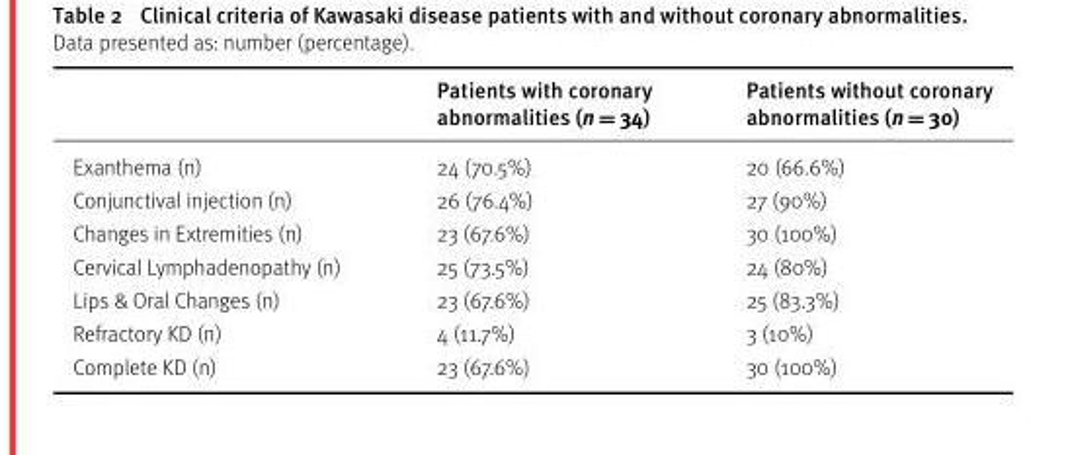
<table><thead><tr><td></td><td>Patients with coronary abnormalities (n = 34)</td><td>Patients without coronary abnormalities (n = 30)</td></tr></thead><tbody><tr><td>Exanthema (n)</td><td>24 (70.5%)</td><td>20 (66.6%)</td></tr><tr><td>Conjunctival injection (n)</td><td>26 (76.4%)</td><td>27 (90%)</td></tr><tr><td>Changes in Extremities (n)</td><td>23 (67.6%)</td><td>30 (100%)</td></tr><tr><td>Cervical Lymphadenopathy (n)</td><td>25 (73.5%)</td><td>24 (80%)</td></tr><tr><td>Lips &amp; Oral Changes (n)</td><td>23 (67.6%)</td><td>25 (83.3%)</td></tr><tr><td>Refractory KD (n)</td><td>4 (11.7%)</td><td>3 (10%)</td></tr><tr><td>Complete KD (n)</td><td>23 (67.6%)</td><td>30 (100%)</td></tr></tbody></table>